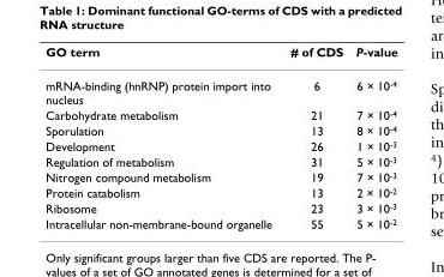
<table><thead><tr><td>GO term</td><td># of CDS</td><td>P-value</td></tr></thead><tbody><tr><td>mRNA-binding (hnRNP) protein import into nucleus</td><td>6</td><td>6 × 10<sup>-4</sup></td></tr><tr><td>Carbohydrate metabolism</td><td>21</td><td>7 × 10<sup>-4</sup></td></tr><tr><td>Sporulation</td><td>13</td><td>8 × 10<sup>-4</sup></td></tr><tr><td>Development</td><td>26</td><td>1 × 10<sup>-3</sup></td></tr><tr><td>Regulation of metabolism</td><td>31</td><td>5 × 10<sup>-3</sup></td></tr><tr><td>Nitrogen compound metabolism</td><td>19</td><td>7 × 10<sup>-3</sup></td></tr><tr><td>Protein catabolism</td><td>13</td><td>2 × 10<sup>-2</sup></td></tr><tr><td>Ribosome</td><td>23</td><td>3 × 10<sup>-3</sup></td></tr><tr><td>Intracellular non-membrane-bound organelle</td><td>55</td><td>5 × 10<sup>-2</sup></td></tr></tbody></table>